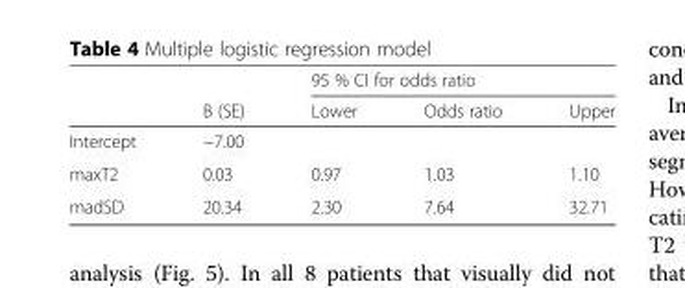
<table><thead><tr><td rowspan="2"></td><td rowspan="2">B (SE)</td><td colspan="3">95 % CI for odds ratio</td></tr><tr><td>Lower</td><td>Odds ratio</td><td>Upper</td></tr></thead><tbody><tr><td>Intercept</td><td>−7.00</td><td></td><td></td><td></td></tr><tr><td>maxT2</td><td>0.03</td><td>0.97</td><td>1.03</td><td>1.10</td></tr><tr><td>madSD</td><td>20.34</td><td>2.30</td><td>7.64</td><td>32.71</td></tr></tbody></table>